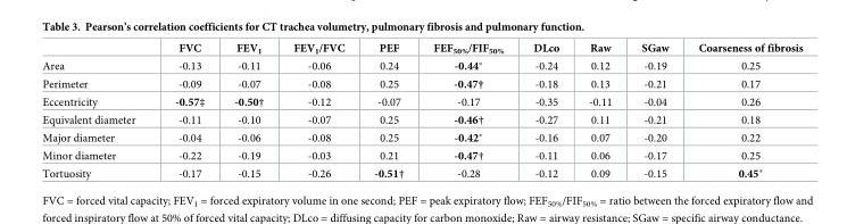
<table><thead><tr><td></td><td>FVC</td><td>FEV<sub>1</sub></td><td>FEV<sub>1</sub>/FVC</td><td>PEF</td><td>FEF<sub>50%</sub>/FIF<sub>50%</sub></td><td>DLco</td><td>Raw</td><td>SGaw</td><td>Coarseness of fibrosis</td></tr></thead><tbody><tr><td>Area</td><td>-0.13</td><td>-0.11</td><td>-0.06</td><td>0.24</td><td>-0.44*</td><td>-0.24</td><td>0.12</td><td>-0.19</td><td>0.25</td></tr><tr><td>Perimeter</td><td>-0.09</td><td>-0.07</td><td>-0.08</td><td>0.25</td><td>-0.47†</td><td>-0.18</td><td>0.13</td><td>-0.21</td><td>0.17</td></tr><tr><td>Eccentricity</td><td>-0.57‡</td><td>-0.50†</td><td>-0.12</td><td>-0.07</td><td>-0.17</td><td>-0.35</td><td>-0.11</td><td>-0.04</td><td>0.26</td></tr><tr><td>Equivalent diameter</td><td>-0.11</td><td>-0.10</td><td>-0.07</td><td>0.25</td><td>-0.46†</td><td>-0.27</td><td>0.11</td><td>-0.21</td><td>0.18</td></tr><tr><td>Major diameter</td><td>-0.04</td><td>-0.06</td><td>-0.08</td><td>0.25</td><td>-0.42*</td><td>-0.16</td><td>0.07</td><td>-0.20</td><td>0.22</td></tr><tr><td>Minor diameter</td><td>-0.22</td><td>-0.19</td><td>-0.03</td><td>0.21</td><td>-0.47†</td><td>-0.11</td><td>0.06</td><td>-0.17</td><td>0.25</td></tr><tr><td>Tortuosity</td><td>-0.17</td><td>-0.15</td><td>-0.26</td><td>-0.51†</td><td>-0.28</td><td>-0.12</td><td>0.09</td><td>-0.15</td><td>0.45*</td></tr></tbody></table>